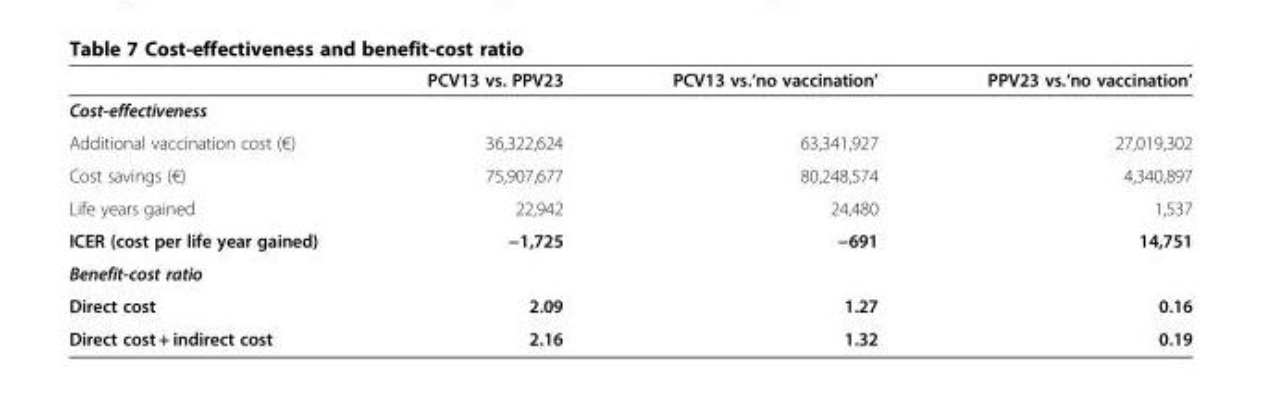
<table><thead><tr><td></td><td>PCV13 vs. PPV23</td><td>PCV13 vs.‘no vaccination’</td><td>PPV23 vs.‘no vaccination’</td></tr></thead><tbody><tr><td colspan="4">Cost-effectiveness</td></tr><tr><td>Additional vaccination cost (€)</td><td>36,322,624</td><td>63,341,927</td><td>27,019,302</td></tr><tr><td>Cost savings (€)</td><td>75,907,677</td><td>80,248,574</td><td>4,340,897</td></tr><tr><td>Life years gained</td><td>22,942</td><td>24,480</td><td>1,537</td></tr><tr><td>ICER (cost per life year gained)</td><td>−1,725</td><td>−691</td><td>14,751</td></tr><tr><td colspan="4">Benefit-cost ratio</td></tr><tr><td>Direct cost</td><td>2.09</td><td>1.27</td><td>0.16</td></tr><tr><td>Direct cost + indirect cost</td><td>2.16</td><td>1.32</td><td>0.19</td></tr></tbody></table>